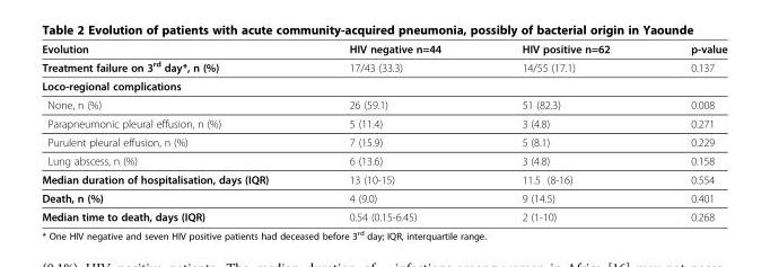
<table><thead><tr><td>Evolution</td><td>HIV negative n=44</td><td>HIV positive n=62</td><td>p-value</td></tr></thead><tbody><tr><td>Treatment failure on 3<sup>rd</sup> day*, n (%)</td><td>17/43 (33.3)</td><td>14/55 (17.1)</td><td>0.137</td></tr><tr><td colspan="4">Loco-regional complications</td></tr><tr><td>None, n (%)</td><td>26 (59.1)</td><td>51 (82.3)</td><td>0.008</td></tr><tr><td>Parapneumonic pleural effusion, n (%)</td><td>5 (11.4)</td><td>3 (4.8)</td><td>0.271</td></tr><tr><td>Purulent pleural effusion, n (%)</td><td>7 (15.9)</td><td>5 (8.1)</td><td>0.229</td></tr><tr><td>Lung abscess, n (%)</td><td>6 (13.6)</td><td>3 (4.8)</td><td>0.158</td></tr><tr><td>Median duration of hospitalisation, days (IQR)</td><td>13 (10-15)</td><td>11.5 (8-16)</td><td>0.554</td></tr><tr><td>Death, n (%)</td><td>4 (9.0)</td><td>9 (14.5)</td><td>0.401</td></tr><tr><td>Median time to death, days (IQR)</td><td>0.54 (0.15-6.45)</td><td>2 (1-10)</td><td>0.268</td></tr></tbody></table>